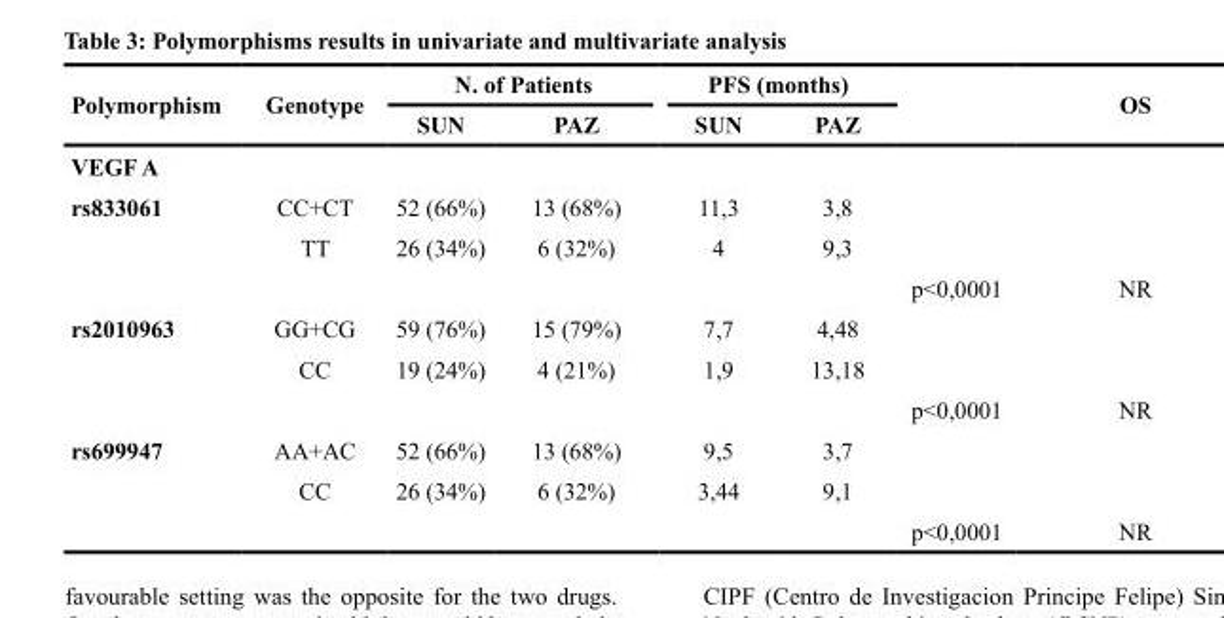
<table><thead><tr><td rowspan="2">Polymorphism</td><td rowspan="2">Genotype</td><td colspan="2">N. of Patients</td><td colspan="2">PFS (months)</td><td rowspan="2"></td><td rowspan="2">OS</td></tr><tr><td>SUN</td><td>PAZ</td><td>SUN</td><td>PAZ</td></tr></thead><tbody><tr><td colspan="8">VEGF A</td></tr><tr><td rowspan="3">rs833061</td><td>CC+CT</td><td>52 (66%)</td><td>13 (68%)</td><td>11,3</td><td>3,8</td><td></td><td></td></tr><tr><td>TT</td><td>26 (34%)</td><td>6 (32%)</td><td>4</td><td>9,3</td><td></td><td></td></tr><tr><td></td><td></td><td></td><td></td><td></td><td>p&lt;0,0001</td><td>NR</td></tr><tr><td rowspan="3">rs2010963</td><td>GG+CG</td><td>59 (76%)</td><td>15 (79%)</td><td>7,7</td><td>4,48</td><td></td><td></td></tr><tr><td>CC</td><td>19 (24%)</td><td>4 (21%)</td><td>1,9</td><td>13,18</td><td></td><td></td></tr><tr><td></td><td></td><td></td><td></td><td></td><td>p&lt;0,0001</td><td>NR</td></tr><tr><td rowspan="3">rs699947</td><td>AA+AC</td><td>52 (66%)</td><td>13 (68%)</td><td>9,5</td><td>3,7</td><td></td><td></td></tr><tr><td>CC</td><td>26 (34%)</td><td>6 (32%)</td><td>3,44</td><td>9,1</td><td></td><td></td></tr><tr><td></td><td></td><td></td><td></td><td></td><td>p&lt;0,0001</td><td>NR</td></tr></tbody></table>